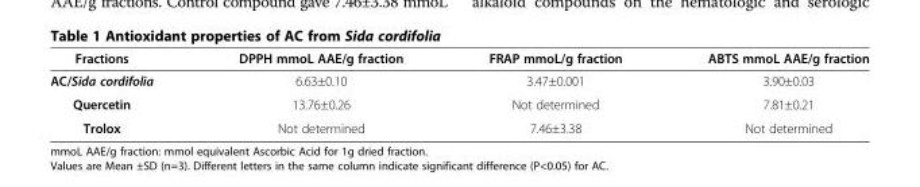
<table><thead><tr><td>Fractions</td><td>DPPH mmoL AAE/g fraction</td><td>FRAP mmoL/g fraction</td><td>ABTS mmoL AAE/g fraction</td></tr></thead><tbody><tr><td>AC/Sida cordifolia</td><td>6.63±0.10</td><td>3.47±0.001</td><td>3.90±0.03</td></tr><tr><td>Quercetin</td><td>13.76±0.26</td><td>Not determined</td><td>7.81±0.21</td></tr><tr><td>Trolox</td><td>Not determined</td><td>7.46±3.38</td><td>Not determined</td></tr></tbody></table>